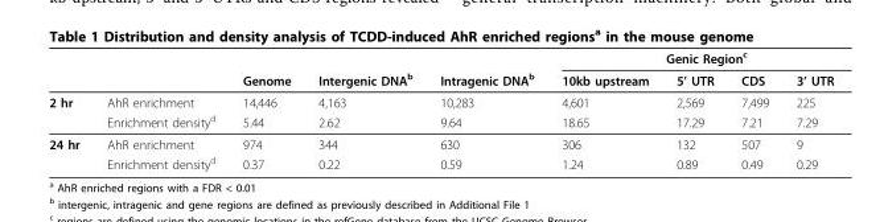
<table><thead><tr><td rowspan="2"></td><td rowspan="2"></td><td rowspan="2">Genome</td><td rowspan="2">Intergenic DNA<sup>b</sup></td><td rowspan="2">Intragenic DNA<sup>b</sup></td><td colspan="4">Genic Region<sup>c</sup></td></tr><tr><td>10kb upstream</td><td>5’ UTR</td><td>CDS</td><td>3’ UTR</td></tr></thead><tbody><tr><td rowspan="2">2 hr</td><td>AhR enrichment</td><td>14,446</td><td>4,163</td><td>10,283</td><td>4,601</td><td>2,569</td><td>7,499</td><td>225</td></tr><tr><td>Enrichment density<sup>d</sup></td><td>5.44</td><td>2.62</td><td>9.64</td><td>18.65</td><td>17.29</td><td>7.21</td><td>7.29</td></tr><tr><td rowspan="2">24 hr</td><td>AhR enrichment</td><td>974</td><td>344</td><td>630</td><td>306</td><td>132</td><td>507</td><td>9</td></tr><tr><td>Enrichment density<sup>d</sup></td><td>0.37</td><td>0.22</td><td>0.59</td><td>1.24</td><td>0.89</td><td>0.49</td><td>0.29</td></tr></tbody></table>